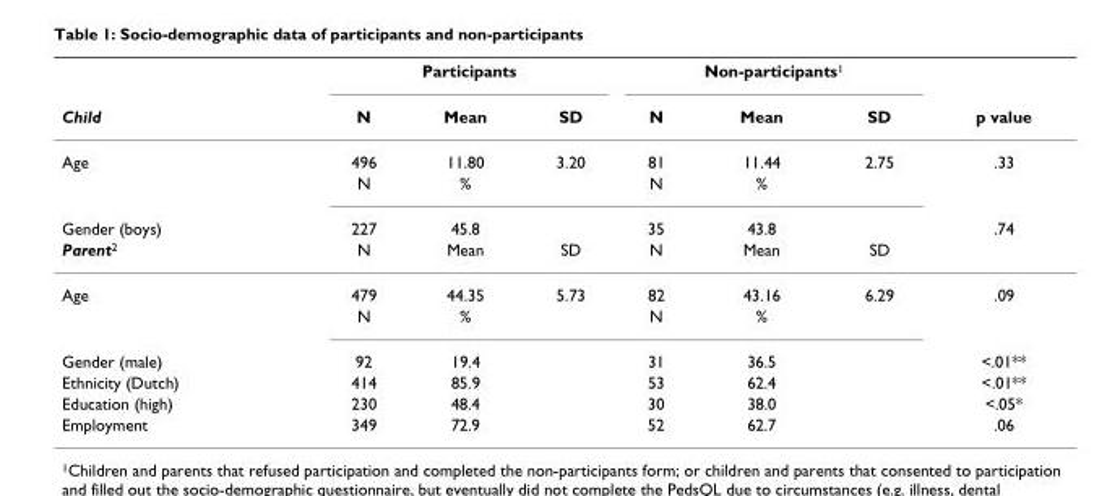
<table><thead><tr><td rowspan="2">Child</td><td colspan="3">Participants</td><td colspan="3">Non-participants<sup>1</sup></td><td rowspan="2">p value</td></tr><tr><td>N</td><td>Mean</td><td>SD</td><td>N</td><td>Mean</td><td>SD</td></tr></thead><tbody><tr><td rowspan="2">Age</td><td>496</td><td>11.80</td><td>3.20</td><td>81</td><td>11.44</td><td>2.75</td><td>.33</td></tr><tr><td>N</td><td>%</td><td></td><td>N</td><td>%</td><td></td><td></td></tr><tr><td>Gender (boys)</td><td>227</td><td>45.8</td><td></td><td>35</td><td>43.8</td><td></td><td>.74</td></tr><tr><td>Parent<sup>2</sup></td><td>N</td><td>Mean</td><td>SD</td><td>N</td><td>Mean</td><td>SD</td><td></td></tr><tr><td rowspan="2">Age</td><td>479</td><td>44.35</td><td>5.73</td><td>82</td><td>43.16</td><td>6.29</td><td>.09</td></tr><tr><td>N</td><td>%</td><td></td><td>N</td><td>%</td><td></td><td></td></tr><tr><td>Gender (male)</td><td>92</td><td>19.4</td><td></td><td>31</td><td>36.5</td><td></td><td>&lt;.01**</td></tr><tr><td>Ethnicity (Dutch)</td><td>414</td><td>85.9</td><td></td><td>53</td><td>62.4</td><td></td><td>&lt;.01**</td></tr><tr><td>Education (high)</td><td>230</td><td>48.4</td><td></td><td>30</td><td>38.0</td><td></td><td>&lt;.05*</td></tr><tr><td>Employment</td><td>349</td><td>72.9</td><td></td><td>52</td><td>62.7</td><td></td><td>.06</td></tr></tbody></table>